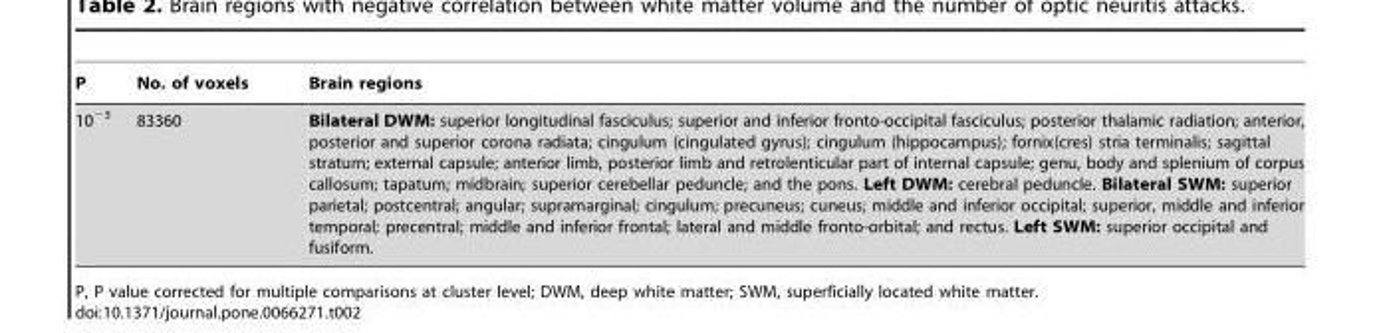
<table><thead><tr><td>P</td><td>No. of voxels</td><td>Brain regions</td></tr></thead><tbody><tr><td>10<sup>−3</sup></td><td>83360</td><td>Bilateral DWM: superior longitudinal fasciculus; superior and inferior fronto-occipital fasciculus; posterior thalamic radiation; anterior, posterior and superior corona radiata; cingulum (cingulated gyrus); cingulum (hippocampus); fornix(cres) stria terminalis; sagittal stratum; external capsule; anterior limb, posterior limb and retrolenticular part of internal capsule; genu, body and splenium of corpus callosum; tapatum; midbrain; superior cerebellar peduncle; and the pons. Left DWM: cerebral peduncle. Bilateral SWM: superior parietal; postcentral; angular; supramarginal; cingulum; precuneus; cuneus; middle and inferior occipital; superior, middle and inferior temporal; precentral; middle and inferior frontal; lateral and middle fronto-orbital; and rectus. Left SWM: superior occipital and fusiform.</td></tr></tbody></table>